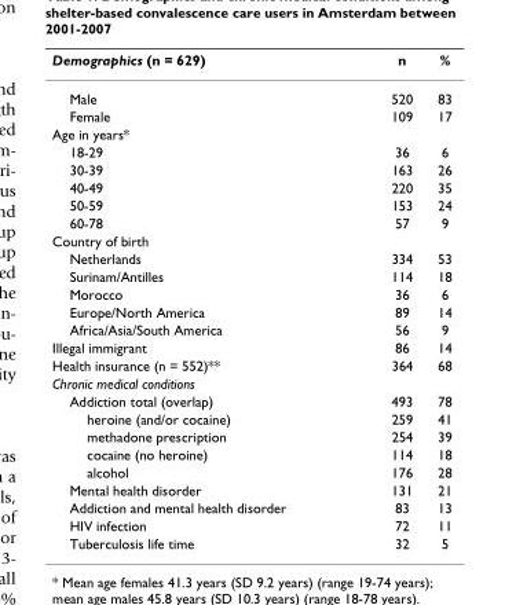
<table><thead><tr><td>Demographics (n = 629)</td><td>n</td><td>%</td></tr></thead><tbody><tr><td>Male</td><td>520</td><td>83</td></tr><tr><td>Female</td><td>109</td><td>17</td></tr><tr><td colspan="3">Age in years*</td></tr><tr><td>18-29</td><td>36</td><td>6</td></tr><tr><td>30-39</td><td>163</td><td>26</td></tr><tr><td>40-49</td><td>220</td><td>35</td></tr><tr><td>50-59</td><td>153</td><td>24</td></tr><tr><td>60-78</td><td>57</td><td>9</td></tr><tr><td colspan="3">Country of birth</td></tr><tr><td>Netherlands</td><td>334</td><td>53</td></tr><tr><td>Surinam/Antilles</td><td>114</td><td>18</td></tr><tr><td>Morocco</td><td>36</td><td>6</td></tr><tr><td>Europe/North America</td><td>89</td><td>14</td></tr><tr><td>Africa/Asia/South America</td><td>56</td><td>9</td></tr><tr><td>Illegal immigrant</td><td>86</td><td>14</td></tr><tr><td>Health insurance (n = 552)**</td><td>364</td><td>68</td></tr><tr><td colspan="3">Chronic medical conditions</td></tr><tr><td>Addiction total (overlap)</td><td>493</td><td>78</td></tr><tr><td>heroine (and/or cocaine)</td><td>259</td><td>41</td></tr><tr><td>methadone prescription</td><td>254</td><td>39</td></tr><tr><td>cocaine (no heroine)</td><td>114</td><td>18</td></tr><tr><td>alcohol</td><td>176</td><td>28</td></tr><tr><td>Mental health disorder</td><td>131</td><td>21</td></tr><tr><td>Addiction and mental health disorder</td><td>83</td><td>13</td></tr><tr><td>HIV infection</td><td>72</td><td>11</td></tr><tr><td>Tuberculosis life time</td><td>32</td><td>5</td></tr></tbody></table>